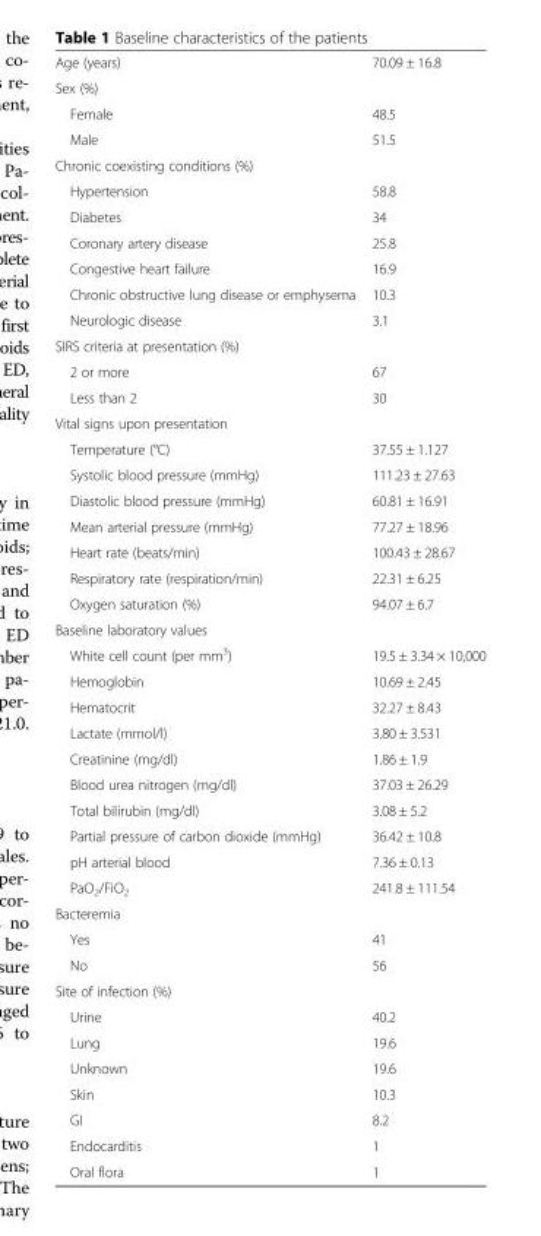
<table><tbody><tr><td>Age (years)</td><td>70.09 ± 16.8</td></tr><tr><td colspan="2">Sex (%)</td></tr><tr><td>Female</td><td>48.5</td></tr><tr><td>Male</td><td>51.5</td></tr><tr><td colspan="2">Chronic coexisting conditions (%)</td></tr><tr><td>Hypertension</td><td>58.8</td></tr><tr><td>Diabetes</td><td>34</td></tr><tr><td>Coronary artery disease</td><td>25.8</td></tr><tr><td>Congestive heart failure</td><td>16.9</td></tr><tr><td>Chronic obstructive lung disease or emphysema</td><td>10.3</td></tr><tr><td>Neurologic disease</td><td>3.1</td></tr><tr><td colspan="2">SIRS criteria at presentation (%)</td></tr><tr><td>2 or more</td><td>67</td></tr><tr><td>Less than 2</td><td>30</td></tr><tr><td colspan="2">Vital signs upon presentation</td></tr><tr><td>Temperature (°C)</td><td>37.55 ± 1.127</td></tr><tr><td>Systolic blood pressure (mmHg)</td><td>111.23 ± 27.63</td></tr><tr><td>Diastolic blood pressure (mmHg)</td><td>60.81 ± 16.91</td></tr><tr><td>Mean arterial pressure (mmHg)</td><td>77.27 ± 18.96</td></tr><tr><td>Heart rate (beats/min)</td><td>100.43 ± 28.67</td></tr><tr><td>Respiratory rate (respiration/min)</td><td>22.31 ± 6.25</td></tr><tr><td>Oxygen saturation (%)</td><td>94.07 ± 6.7</td></tr><tr><td colspan="2">Baseline laboratory values</td></tr><tr><td>White cell count (per mm<sup>3</sup>)</td><td>19.5 ± 3.34 × 10,000</td></tr><tr><td>Hemoglobin</td><td>10.69 ± 2.45</td></tr><tr><td>Hematocrit</td><td>32.27 ± 8.43</td></tr><tr><td>Lactate (mmol/l)</td><td>3.80 ± 3.531</td></tr><tr><td>Creatinine (mg/dl)</td><td>1.86 ± 1.9</td></tr><tr><td>Blood urea nitrogen (mg/dl)</td><td>37.03 ± 26.29</td></tr><tr><td>Total bilirubin (mg/dl)</td><td>3.08 ± 5.2</td></tr><tr><td>Partial pressure of carbon dioxide (mmHg)</td><td>36.42 ± 10.8</td></tr><tr><td>pH arterial blood</td><td>7.36 ± 0.13</td></tr><tr><td>PaO<sub>2</sub>/FiO<sub>2</sub></td><td>241.8 ± 111.54</td></tr><tr><td colspan="2">Bacteremia</td></tr><tr><td>Yes</td><td>41</td></tr><tr><td>No</td><td>56</td></tr><tr><td colspan="2">Site of infection (%)</td></tr><tr><td>Urine</td><td>40.2</td></tr><tr><td>Lung</td><td>19.6</td></tr><tr><td>Unknown</td><td>19.6</td></tr><tr><td>Skin</td><td>10.3</td></tr><tr><td>GI</td><td>8.2</td></tr><tr><td>Endocarditis</td><td>1</td></tr><tr><td>Oral flora</td><td>1</td></tr></tbody></table>